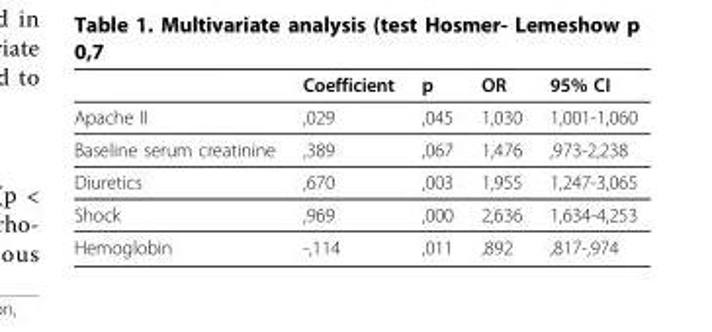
<table><thead><tr><td></td><td>Coefficient</td><td>p</td><td>OR</td><td>95% CI</td></tr></thead><tbody><tr><td>Apache II</td><td>,029</td><td>,045</td><td>1,030</td><td>1,001-1,060</td></tr><tr><td>Baseline serum creatinine</td><td>,389</td><td>,067</td><td>1,476</td><td>,973-2,238</td></tr><tr><td>Diuretics</td><td>,670</td><td>,003</td><td>1,955</td><td>1,247-3,065</td></tr><tr><td>Shock</td><td>,969</td><td>,000</td><td>2,636</td><td>1,634-4,253</td></tr><tr><td>Hemoglobin</td><td>-,114</td><td>,011</td><td>,892</td><td>,817-,974</td></tr></tbody></table>